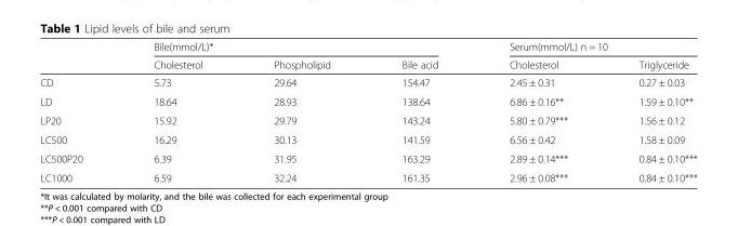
<table><thead><tr><td rowspan="2"></td><td colspan="3">Bile(mmol/L)*</td><td colspan="2">Serum(mmol/L) n = 10</td></tr><tr><td>Cholesterol</td><td>Phospholipid</td><td>Bile acid</td><td>Cholesterol</td><td>Triglyceride</td></tr></thead><tbody><tr><td>CD</td><td>5.73</td><td>29.64</td><td>154.47</td><td>2.45 ± 0.31</td><td>0.27 ± 0.03</td></tr><tr><td>LD</td><td>18.64</td><td>28.93</td><td>138.64</td><td>6.86 ± 0.16**</td><td>1.59 ± 0.10**</td></tr><tr><td>LP20</td><td>15.92</td><td>29.79</td><td>143.24</td><td>5.80 ± 0.79***</td><td>1.56 ± 0.12</td></tr><tr><td>LC500</td><td>16.29</td><td>30.13</td><td>141.59</td><td>6.56 ± 0.42</td><td>1.58 ± 0.09</td></tr><tr><td>LC500P20</td><td>6.39</td><td>31.95</td><td>163.29</td><td>2.89 ± 0.14***</td><td>0.84 ± 0.10***</td></tr><tr><td>LC1000</td><td>6.59</td><td>32.24</td><td>161.35</td><td>2.96 ± 0.08***</td><td>0.84 ± 0.10***</td></tr></tbody></table>